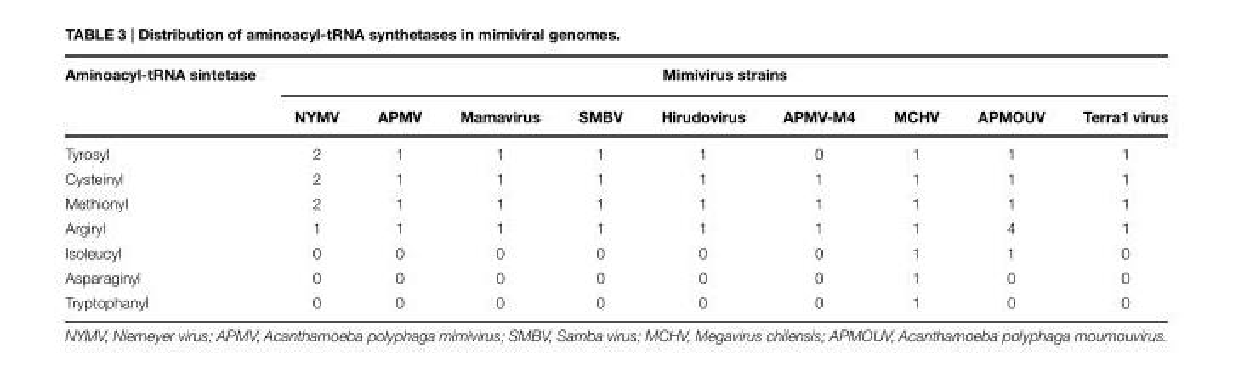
<table><thead><tr><td rowspan="2">Aminoacyl-tRNA sintetase</td><td colspan="9">Mimivirus strains</td></tr><tr><td>NYMV</td><td>APMV</td><td>Mamavirus</td><td>SMBV</td><td>Hirudovirus</td><td>APMV-M4</td><td>MCHV</td><td>APMOUV</td><td>Terra1 virus</td></tr></thead><tbody><tr><td>Tyrosyl</td><td>2</td><td>1</td><td>1</td><td>1</td><td>1</td><td>0</td><td>1</td><td>1</td><td>1</td></tr><tr><td>Cysteinyl</td><td>2</td><td>1</td><td>1</td><td>1</td><td>1</td><td>1</td><td>1</td><td>1</td><td>1</td></tr><tr><td>Methionyl</td><td>2</td><td>1</td><td>1</td><td>1</td><td>1</td><td>1</td><td>1</td><td>1</td><td>1</td></tr><tr><td>Argiryl</td><td>1</td><td>1</td><td>1</td><td>1</td><td>1</td><td>1</td><td>1</td><td>4</td><td>1</td></tr><tr><td>Isoleucyl</td><td>0</td><td>0</td><td>0</td><td>0</td><td>0</td><td>0</td><td>1</td><td>1</td><td>0</td></tr><tr><td>Asparaginyl</td><td>0</td><td>0</td><td>0</td><td>0</td><td>0</td><td>0</td><td>1</td><td>0</td><td>0</td></tr><tr><td>Tryptophanyl</td><td>0</td><td>0</td><td>0</td><td>0</td><td>0</td><td>0</td><td>1</td><td>0</td><td>0</td></tr></tbody></table>